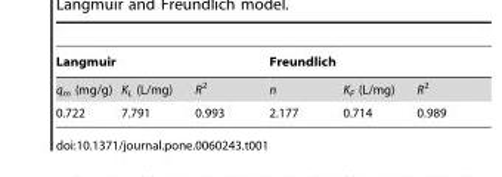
<table><thead><tr><td colspan="3">Langmuir</td><td colspan="3">Freundlich</td></tr><tr><td>q<sub>m</sub> (mg/g)</td><td>K<sub>L</sub> (L/mg)</td><td>R<sup>2</sup></td><td>n</td><td>K<sub>F</sub> (L/mg)</td><td>R<sup>2</sup></td></tr></thead><tbody><tr><td>0.722</td><td>7.791</td><td>0.993</td><td>2.177</td><td>0.714</td><td>0.989</td></tr></tbody></table>